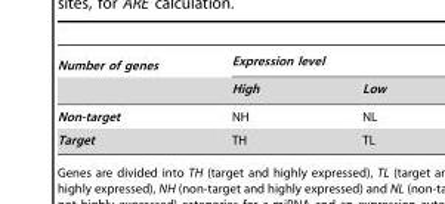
<table><thead><tr><td rowspan="2">Number of genes</td><td colspan="2">Expression level</td></tr><tr><td>High</td><td>Low</td></tr></thead><tbody><tr><td>Non-target</td><td>NH</td><td>NL</td></tr><tr><td>Target</td><td>TH</td><td>TL</td></tr></tbody></table>